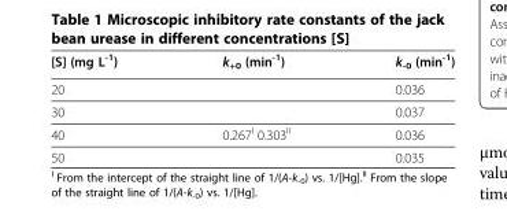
<table><thead><tr><td>[S] (mg L<sup>-1</sup>)</td><td>k<sub>+0</sub> (min<sup>-1</sup>)</td><td>k<sub>-0</sub> (min<sup>-1</sup>)</td></tr></thead><tbody><tr><td>20</td><td></td><td>0.036</td></tr><tr><td>30</td><td></td><td>0.037</td></tr><tr><td>40</td><td>0.267<sup>I</sup> 0.303<sup>II</sup></td><td>0.036</td></tr><tr><td>50</td><td></td><td>0.035</td></tr></tbody></table>